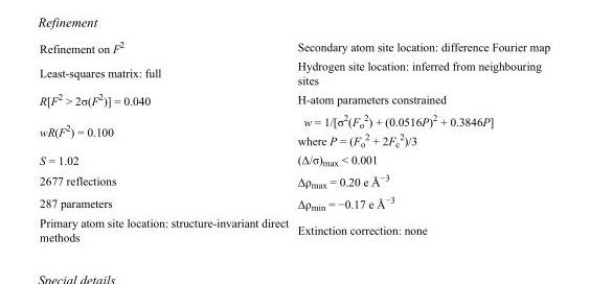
<table><tbody><tr><td>Refinement on F<sup>2</sup></td><td>Secondary atom site location: difference Fourier map</td></tr><tr><td>Least-squares matrix: full</td><td>Hydrogen site location: inferred from neighbouring sites</td></tr><tr><td>R[F<sup>2</sup> &gt; 2σ(F<sup>2</sup>)] = 0.040</td><td>H-atom parameters constrained</td></tr><tr><td>wR(F<sup>2</sup>) = 0.100</td><td>w = 1/[σ<sup>2</sup>(F<sub>o</sub> <sup>2</sup>) + (0.0516P)<sup>2</sup> + 0.3846P] where P = (F<sub>o</sub> <sup>2</sup> + 2F<sub>c</sub> <sup>2</sup>)/3</td></tr><tr><td>S = 1.02</td><td>(Δ/σ)<sub>max</sub> &lt; 0.001</td></tr><tr><td>2677 reflections</td><td>Δρ<sub>max</sub> = 0.20 e Å<sup>−3</sup></td></tr><tr><td>287 parameters</td><td>Δρ<sub>min</sub> = −0.17 e Å<sup>−3</sup></td></tr><tr><td>Primary atom site location: structure-invariant direct methods</td><td>Extinction correction: none</td></tr></tbody></table>